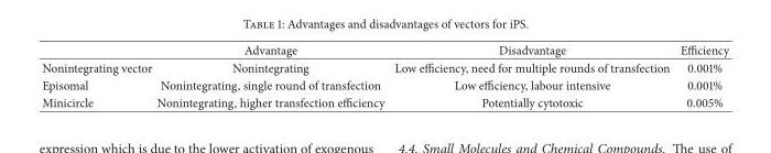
<table><thead><tr><td></td><td>Advantage</td><td>Disadvantage</td><td>Efficiency</td></tr></thead><tbody><tr><td>Nonintegrating vector</td><td>Nonintegrating</td><td>Low efficiency, need for multiple rounds of transfection</td><td>0.001%</td></tr><tr><td>Episomal</td><td>Nonintegrating, single round of transfection</td><td>Low efficiency, labour intensive</td><td>0.001%</td></tr><tr><td>Minicircle</td><td>Nonintegrating, higher transfection efficiency</td><td>Potentially cytotoxic</td><td>0.005%</td></tr></tbody></table>